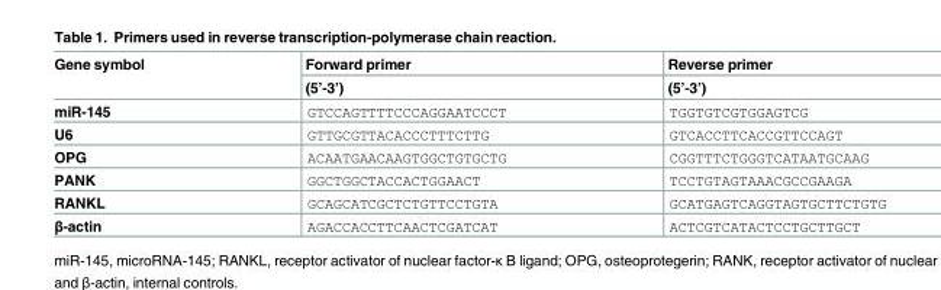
<table><thead><tr><td rowspan="2">Gene symbol</td><td rowspan="2">Forward primer (5’-3’)</td><td rowspan="2">Reverse primer (5’-3’)</td></tr><tr></tr></thead><tbody><tr><td>miR-145</td><td>GTCCAGTTTTCCCAGGAATCCCT</td><td>TGGTGTCGTGGAGTCG</td></tr><tr><td>U6</td><td>GTTGCGTTACACCCTTTCTTG</td><td>GTCACCTTCACCGTTCCAGT</td></tr><tr><td>OPG</td><td>ACAATGAACAAGTGGCTGTGCTG</td><td>CGGTTTCTGGGTCATAATGCAAG</td></tr><tr><td>PANK</td><td>GGCTGGCTACCACTGGAACT</td><td>TCCTGTAGTAAACGCCGAAGA</td></tr><tr><td>RANKL</td><td>GCAGCATCGCTCTGTTCCTGTA</td><td>GCATGAGTCAGGTAGTGCTTCTGTG</td></tr><tr><td>β-actin</td><td>AGACCACCTTCAACTCGATCAT</td><td>ACTCGTCATACTCCTGCTTGCT</td></tr></tbody></table>